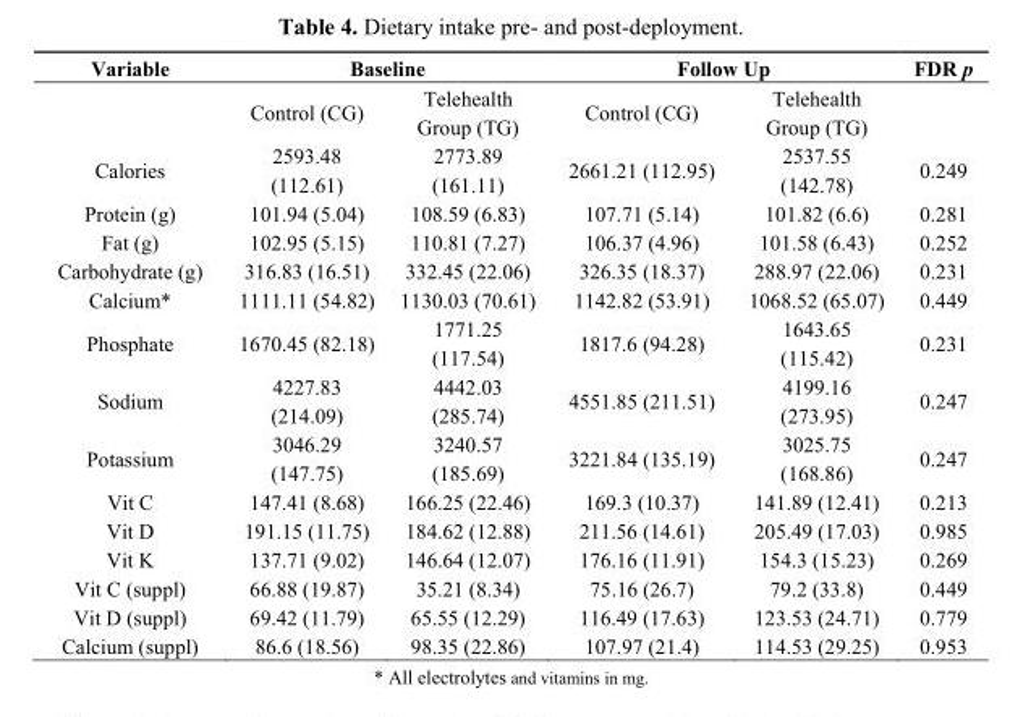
<table><thead><tr><td rowspan="2">Variable</td><td colspan="2">Baseline</td><td colspan="2">Follow Up</td><td rowspan="2">FDR p</td></tr><tr><td>Control (CG)</td><td>Telehealth Group (TG)</td><td>Control (CG)</td><td>Telehealth Group (TG)</td></tr></thead><tbody><tr><td>Calories</td><td>2593.48 (112.61)</td><td>2773.89 (161.11)</td><td>2661.21 (112.95)</td><td>2537.55 (142.78)</td><td>0.249</td></tr><tr><td>Protein (g)</td><td>101.94 (5.04)</td><td>108.59 (6.83)</td><td>107.71 (5.14)</td><td>101.82 (6.6)</td><td>0.281</td></tr><tr><td>Fat (g)</td><td>102.95 (5.15)</td><td>110.81 (7.27)</td><td>106.37 (4.96)</td><td>101.58 (6.43)</td><td>0.252</td></tr><tr><td>Carbohydrate (g)</td><td>316.83 (16.51)</td><td>332.45 (22.06)</td><td>326.35 (18.37)</td><td>288.97 (22.06)</td><td>0.231</td></tr><tr><td>Calcium*</td><td>1111.11 (54.82)</td><td>1130.03 (70.61)</td><td>1142.82 (53.91)</td><td>1068.52 (65.07)</td><td>0.449</td></tr><tr><td>Phosphate</td><td>1670.45 (82.18)</td><td>1771.25 (117.54)</td><td>1817.6 (94.28)</td><td>1643.65 (115.42)</td><td>0.231</td></tr><tr><td>Sodium</td><td>4227.83 (214.09)</td><td>4442.03 (285.74)</td><td>4551.85 (211.51)</td><td>4199.16 (273.95)</td><td>0.247</td></tr><tr><td>Potassium</td><td>3046.29 (147.75)</td><td>3240.57 (185.69)</td><td>3221.84 (135.19)</td><td>3025.75 (168.86)</td><td>0.247</td></tr><tr><td>Vit C</td><td>147.41 (8.68)</td><td>166.25 (22.46)</td><td>169.3 (10.37)</td><td>141.89 (12.41)</td><td>0.213</td></tr><tr><td>Vit D</td><td>191.15 (11.75)</td><td>184.62 (12.88)</td><td>211.56 (14.61)</td><td>205.49 (17.03)</td><td>0.985</td></tr><tr><td>Vit K</td><td>137.71 (9.02)</td><td>146.64 (12.07)</td><td>176.16 (11.91)</td><td>154.3 (15.23)</td><td>0.269</td></tr><tr><td>Vit C (suppl)</td><td>66.88 (19.87)</td><td>35.21 (8.34)</td><td>75.16 (26.7)</td><td>79.2 (33.8)</td><td>0.449</td></tr><tr><td>Vit D (suppl)</td><td>69.42 (11.79)</td><td>65.55 (12.29)</td><td>116.49 (17.63)</td><td>123.53 (24.71)</td><td>0.779</td></tr><tr><td>Calcium (suppl)</td><td>86.6 (18.56)</td><td>98.35 (22.86)</td><td>107.97 (21.4)</td><td>114.53 (29.25)</td><td>0.953</td></tr></tbody></table>